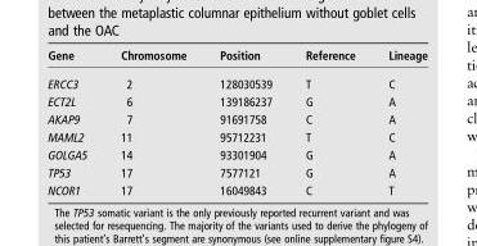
<table><thead><tr><td>Gene</td><td>Chromosome</td><td>Position</td><td>Reference</td><td>Lineage</td></tr></thead><tbody><tr><td>ERCC3</td><td>2</td><td>128030539</td><td>T</td><td>C</td></tr><tr><td>ECT2L</td><td>6</td><td>139186237</td><td>G</td><td>A</td></tr><tr><td>AKAP9</td><td>7</td><td>91691758</td><td>C</td><td>A</td></tr><tr><td>MAML2</td><td>11</td><td>95712231</td><td>T</td><td>C</td></tr><tr><td>GOLGA5</td><td>14</td><td>93301904</td><td>G</td><td>A</td></tr><tr><td>TP53</td><td>17</td><td>7577121</td><td>G</td><td>A</td></tr><tr><td>NCOR1</td><td>17</td><td>16049843</td><td>C</td><td>T</td></tr></tbody></table>